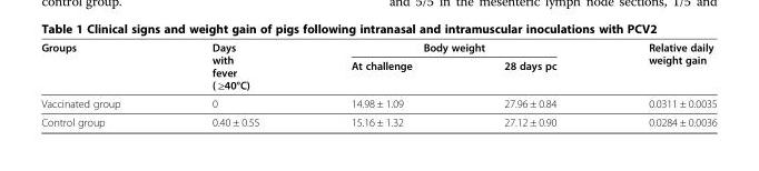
<table><thead><tr><td rowspan="2">Groups</td><td rowspan="2">Days with fever ( ≥40°C)</td><td colspan="2">Body weight</td><td rowspan="2">Relative daily weight gain</td></tr><tr><td>At challenge</td><td>28 days pc</td></tr></thead><tbody><tr><td>Vaccinated group</td><td>0</td><td>14.98 ± 1.09</td><td>27.96 ± 0.84</td><td>0.0311 ± 0.0035</td></tr><tr><td>Control group</td><td>0.40 ± 0.55</td><td>15.16 ± 1.32</td><td>27.12 ± 0.90</td><td>0.0284 ± 0.0036</td></tr></tbody></table>